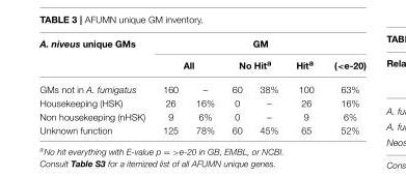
<table><thead><tr><td rowspan="3">A. niveus unique GMs GMs not in A. fumigatus</td><td colspan="6">GM</td></tr><tr><td colspan="2">All</td><td colspan="2">No Hit<sup>a</sup></td><td rowspan="2">Hit<sup>a</sup> 100</td><td rowspan="2">(&lt;e-20) 63%</td></tr><tr><td>160</td><td>–</td><td>60</td><td>38%</td></tr></thead><tbody><tr><td>Housekeeping (HSK)</td><td>26</td><td>16%</td><td>0</td><td>–</td><td>26</td><td>16%</td></tr><tr><td>Non housekeeping (nHSK)</td><td>9</td><td>6%</td><td>0</td><td>–</td><td>9</td><td>6%</td></tr><tr><td>Unknown function</td><td>125</td><td>78%</td><td>60</td><td>45%</td><td>65</td><td>52%</td></tr></tbody></table>